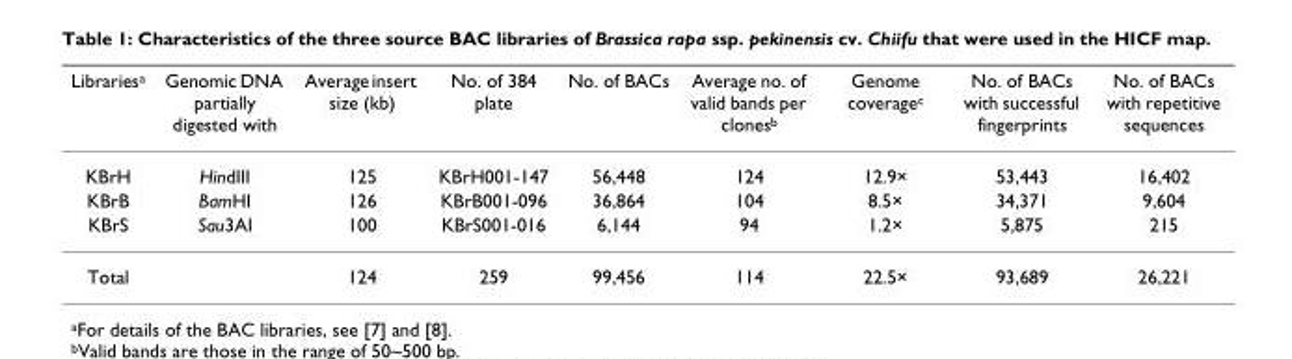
<table><thead><tr><td>Libraries<sup>a</sup></td><td>Genomic DNA partially digested with</td><td>Average insert size (kb)</td><td>No. of 384 plate</td><td>No. of BACs</td><td>Average no. of valid bands per clones<sup>b</sup></td><td>Genome coverage<sup>c</sup></td><td>No. of BACs with successful fingerprints</td><td>No. of BACs with repetitive sequences</td></tr></thead><tbody><tr><td>KBrH</td><td>HindIII</td><td>125</td><td>KBrH001-147</td><td>56,448</td><td>124</td><td>12.9×</td><td>53,443</td><td>16,402</td></tr><tr><td>KBrB</td><td>BamHI</td><td>126</td><td>KBrB001-096</td><td>36,864</td><td>104</td><td>8.5×</td><td>34,371</td><td>9,604</td></tr><tr><td>KBrS</td><td>Sau3AI</td><td>100</td><td>KBrS001-016</td><td>6,144</td><td>94</td><td>1.2×</td><td>5,875</td><td>215</td></tr><tr><td>Total</td><td></td><td>124</td><td>259</td><td>99,456</td><td>114</td><td>22.5×</td><td>93,689</td><td>26,221</td></tr></tbody></table>